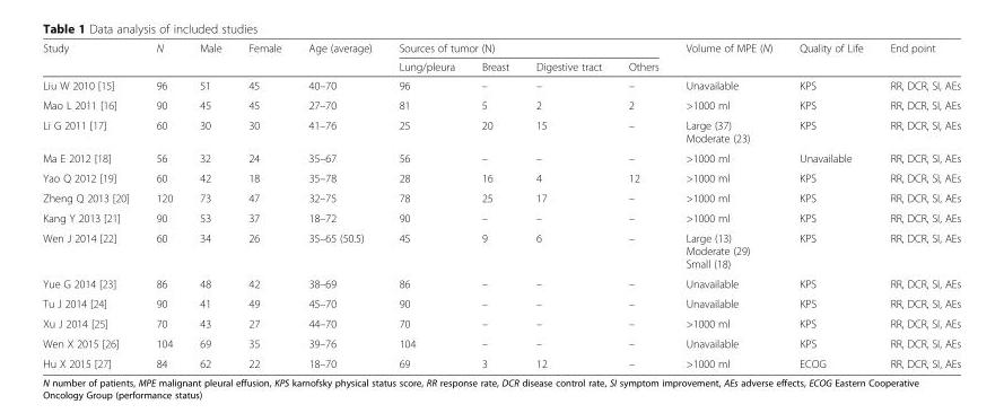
<table><thead><tr><td rowspan="2">Study</td><td rowspan="2">N</td><td rowspan="2">Male</td><td rowspan="2">Female</td><td rowspan="2">Age (average)</td><td colspan="4">Sources of tumor (N)</td><td rowspan="2">Volume of MPE (N)</td><td rowspan="2">Quality of Life</td><td rowspan="2">End point</td></tr><tr><td>Lung/pleura</td><td>Breast</td><td>Digestive tract</td><td>Others</td></tr></thead><tbody><tr><td>Liu W 2010 [15]</td><td>96</td><td>51</td><td>45</td><td>40–70</td><td>96</td><td>–</td><td>–</td><td>–</td><td>Unavailable</td><td>KPS</td><td>RR, DCR, SI, AEs</td></tr><tr><td>Mao L 2011 [16]</td><td>90</td><td>45</td><td>45</td><td>27–70</td><td>81</td><td>5</td><td>2</td><td>2</td><td>&gt;1000 ml</td><td>KPS</td><td>RR, DCR, SI, AEs</td></tr><tr><td>Li G 2011 [17]</td><td>60</td><td>30</td><td>30</td><td>41–76</td><td>25</td><td>20</td><td>15</td><td>–</td><td>Large (37) Moderate (23)</td><td>KPS</td><td>RR, DCR, SI, AEs</td></tr><tr><td>Ma E 2012 [18]</td><td>56</td><td>32</td><td>24</td><td>35–67</td><td>56</td><td>–</td><td>–</td><td>–</td><td>&gt;1000 ml</td><td>Unavailable</td><td>RR, DCR, SI, AEs</td></tr><tr><td>Yao Q 2012 [19]</td><td>60</td><td>42</td><td>18</td><td>35–78</td><td>28</td><td>16</td><td>4</td><td>12</td><td>&gt;1000 ml</td><td>KPS</td><td>RR, DCR, SI, AEs</td></tr><tr><td>Zheng Q 2013 [20]</td><td>120</td><td>73</td><td>47</td><td>32–75</td><td>78</td><td>25</td><td>17</td><td>–</td><td>&gt;1000 ml</td><td>KPS</td><td>RR, DCR, SI, AEs</td></tr><tr><td>Kang Y 2013 [21]</td><td>90</td><td>53</td><td>37</td><td>18–72</td><td>90</td><td>–</td><td>–</td><td>–</td><td>&gt;1000 ml</td><td>KPS</td><td>RR, DCR, SI, AEs</td></tr><tr><td>Wen J 2014 [22]</td><td>60</td><td>34</td><td>26</td><td>35–65 (50.5)</td><td>45</td><td>9</td><td>6</td><td>–</td><td>Large (13) Moderate (29) Small (18)</td><td>KPS</td><td>RR, DCR, SI, AEs</td></tr><tr><td>Yue G 2014 [23]</td><td>86</td><td>48</td><td>42</td><td>38–69</td><td>86</td><td>–</td><td>–</td><td>–</td><td>Unavailable</td><td>KPS</td><td>RR, DCR, SI, AEs</td></tr><tr><td>Tu J 2014 [24]</td><td>90</td><td>41</td><td>49</td><td>45–70</td><td>90</td><td>–</td><td>–</td><td>–</td><td>Unavailable</td><td>KPS</td><td>RR, DCR, SI, AEs</td></tr><tr><td>Xu J 2014 [25]</td><td>70</td><td>43</td><td>27</td><td>44–70</td><td>70</td><td>–</td><td>–</td><td>–</td><td>&gt;1000 ml</td><td>KPS</td><td>RR, DCR, SI, AEs</td></tr><tr><td>Wen X 2015 [26]</td><td>104</td><td>69</td><td>35</td><td>39–76</td><td>104</td><td>–</td><td>–</td><td>–</td><td>Unavailable</td><td>KPS</td><td>RR, DCR, SI, AEs</td></tr><tr><td>Hu X 2015 [27]</td><td>84</td><td>62</td><td>22</td><td>18–70</td><td>69</td><td>3</td><td>12</td><td>–</td><td>&gt;1000 ml</td><td>ECOG</td><td>RR, DCR, SI, AEs</td></tr></tbody></table>